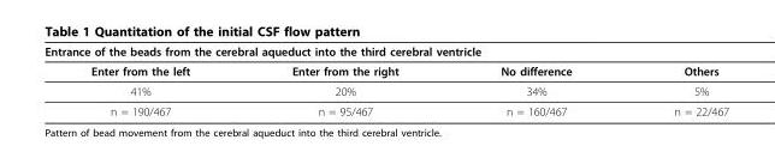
<table><thead><tr><td colspan="4">Entrance of the beads from the cerebral aqueduct into the third cerebral ventricle</td></tr><tr><td>Enter from the left</td><td>Enter from the right</td><td>No difference</td><td>Others</td></tr></thead><tbody><tr><td>41%</td><td>20%</td><td>34%</td><td>5%</td></tr><tr><td>n = 190/467</td><td>n = 95/467</td><td>n = 160/467</td><td>n = 22/467</td></tr></tbody></table>